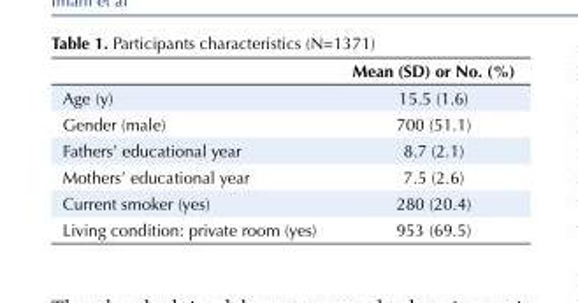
<table><thead><tr><td></td><td>Mean (SD) or No. (%)</td></tr></thead><tbody><tr><td>Age (y)</td><td>15.5 (1.6)</td></tr><tr><td>Gender (male)</td><td>700 (51.1)</td></tr><tr><td>Fathers’ educational year</td><td>8.7 (2.1)</td></tr><tr><td>Mothers’ educational year</td><td>7.5 (2.6)</td></tr><tr><td>Current smoker (yes)</td><td>280 (20.4)</td></tr><tr><td>Living condition: private room (yes)</td><td>953 (69.5)</td></tr></tbody></table>